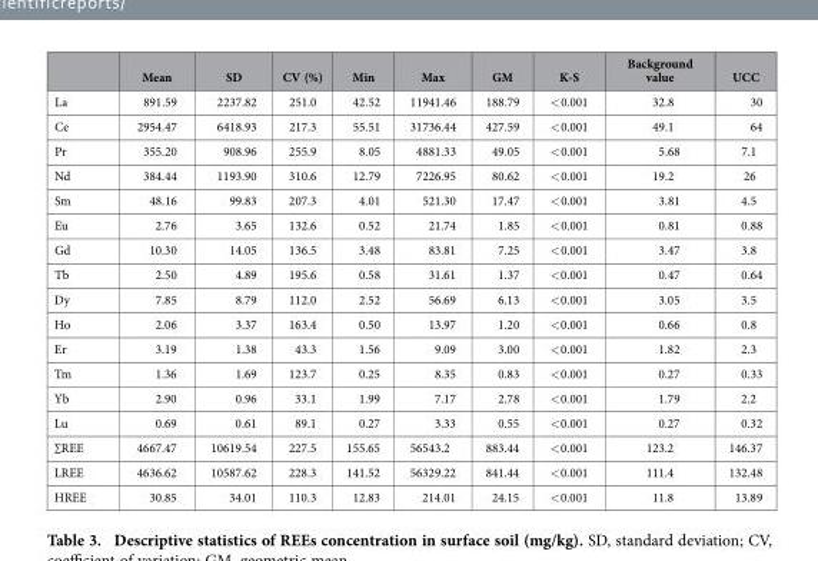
<table><thead><tr><td></td><td>Mean</td><td>SD</td><td>CV (%)</td><td>Min</td><td>Max</td><td>GM</td><td>K-S</td><td>Background value</td><td>UCC</td></tr></thead><tbody><tr><td>La</td><td>891.59</td><td>2237.82</td><td>251.0</td><td>42.52</td><td>11941.46</td><td>188.79</td><td>&lt; 0.001</td><td>32.8</td><td>30</td></tr><tr><td>Ce</td><td>2954.47</td><td>6418.93</td><td>217.3</td><td>55.51</td><td>31736.44</td><td>427.59</td><td>&lt; 0.001</td><td>49.1</td><td>64</td></tr><tr><td>Pr</td><td>355.20</td><td>908.96</td><td>255.9</td><td>8.05</td><td>4881.33</td><td>49.05</td><td>&lt; 0.001</td><td>5.68</td><td>7.1</td></tr><tr><td>Nd</td><td>384.44</td><td>1193.90</td><td>310.6</td><td>12.79</td><td>7226.95</td><td>80.62</td><td>&lt; 0.001</td><td>19.2</td><td>26</td></tr><tr><td>Sm</td><td>48.16</td><td>99.83</td><td>207.3</td><td>4.01</td><td>521.30</td><td>17.47</td><td>&lt; 0.001</td><td>3.81</td><td>4.5</td></tr><tr><td>Eu</td><td>2.76</td><td>3.65</td><td>132.6</td><td>0.52</td><td>21.74</td><td>1.85</td><td>&lt; 0.001</td><td>0.81</td><td>0.88</td></tr><tr><td>Gd</td><td>10.30</td><td>14.05</td><td>136.5</td><td>3.48</td><td>83.81</td><td>7.25</td><td>&lt; 0.001</td><td>3.47</td><td>3.8</td></tr><tr><td>Tb</td><td>2.50</td><td>4.89</td><td>195.6</td><td>0.58</td><td>31.61</td><td>1.37</td><td>&lt; 0.001</td><td>0.47</td><td>0.64</td></tr><tr><td>Dy</td><td>7.85</td><td>8.79</td><td>112.0</td><td>2.52</td><td>56.69</td><td>6.13</td><td>&lt; 0.001</td><td>3.05</td><td>3.5</td></tr><tr><td>Ho</td><td>2.06</td><td>3.37</td><td>163.4</td><td>0.50</td><td>13.97</td><td>1.20</td><td>&lt; 0.001</td><td>0.66</td><td>0.8</td></tr><tr><td>Er</td><td>3.19</td><td>1.38</td><td>43.3</td><td>1.56</td><td>9.09</td><td>3.00</td><td>&lt; 0.001</td><td>1.82</td><td>2.3</td></tr><tr><td>Tm</td><td>1.36</td><td>1.69</td><td>123.7</td><td>0.25</td><td>8.35</td><td>0.83</td><td>&lt; 0.001</td><td>0.27</td><td>0.33</td></tr><tr><td>Yb</td><td>2.90</td><td>0.96</td><td>33.1</td><td>1.99</td><td>7.17</td><td>2.78</td><td>&lt; 0.001</td><td>1.79</td><td>2.2</td></tr><tr><td>Lu</td><td>0.69</td><td>0.61</td><td>89.1</td><td>0.27</td><td>3.33</td><td>0.55</td><td>&lt; 0.001</td><td>0.27</td><td>0.32</td></tr><tr><td>∑REE</td><td>4667.47</td><td>10619.54</td><td>227.5</td><td>155.65</td><td>56543.2</td><td>883.44</td><td>&lt; 0.001</td><td>123.2</td><td>146.37</td></tr><tr><td>LREE</td><td>4636.62</td><td>10587.62</td><td>228.3</td><td>141.52</td><td>56329.22</td><td>841.44</td><td>&lt; 0.001</td><td>111.4</td><td>132.48</td></tr><tr><td>HREE</td><td>30.85</td><td>34.01</td><td>110.3</td><td>12.83</td><td>214.01</td><td>24.15</td><td>&lt; 0.001</td><td>11.8</td><td>13.89</td></tr></tbody></table>